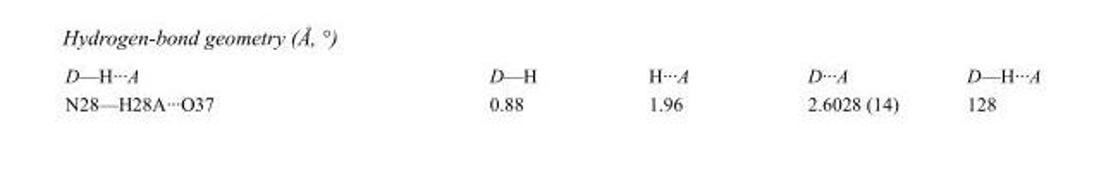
<table><tbody><tr><td>D—H···A</td><td>D—H</td><td>H···A</td><td>D···A</td><td>D—H···A</td></tr><tr><td>N28—H28A···O37</td><td>0.88</td><td>1.96</td><td>2.6028 (14)</td><td>128</td></tr></tbody></table>